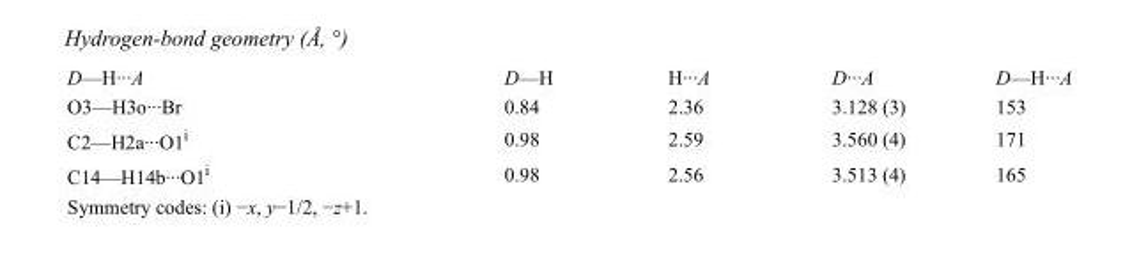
<table><tbody><tr><td>D—H···A</td><td>D—H</td><td>H···A</td><td>D···A</td><td>D—H···A</td></tr><tr><td>O3—H3o···Br</td><td>0.84</td><td>2.36</td><td>3.128 (3)</td><td>153</td></tr><tr><td>C2—H2a···O1<sup>i</sup></td><td>0.98</td><td>2.59</td><td>3.560 (4)</td><td>171</td></tr><tr><td>C14—H14b···O1<sup>i</sup></td><td>0.98</td><td>2.56</td><td>3.513 (4)</td><td>165</td></tr></tbody></table>